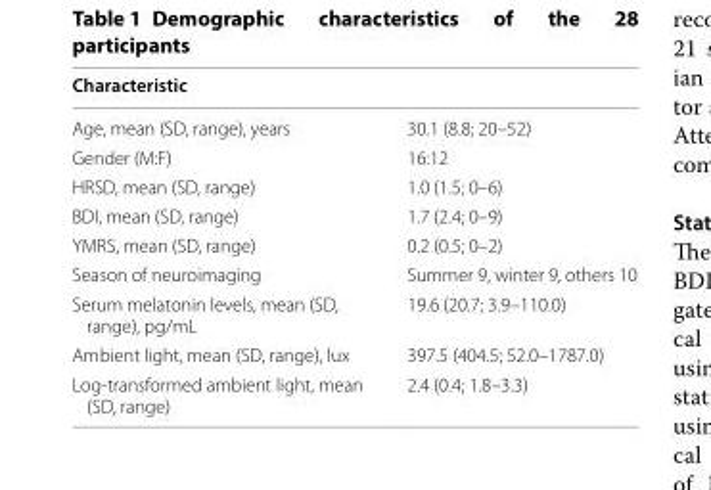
<table><thead><tr><td>Characteristic</td><td></td></tr></thead><tbody><tr><td>Age, mean (SD, range), years</td><td>30.1 (8.8; 20–52)</td></tr><tr><td>Gender (M:F)</td><td>16:12</td></tr><tr><td>HRSD, mean (SD, range)</td><td>1.0 (1.5; 0–6)</td></tr><tr><td>BDI, mean (SD, range)</td><td>1.7 (2.4; 0–9)</td></tr><tr><td>YMRS, mean (SD, range)</td><td>0.2 (0.5; 0–2)</td></tr><tr><td>Season of neuroimaging</td><td>Summer 9, winter 9, others 10</td></tr><tr><td>Serum melatonin levels, mean (SD, range), pg/mL</td><td>19.6 (20.7; 3.9–110.0)</td></tr><tr><td>Ambient light, mean (SD, range), lux</td><td>397.5 (404.5; 52.0–1787.0)</td></tr><tr><td>Log-transformed ambient light, mean (SD, range)</td><td>2.4 (0.4; 1.8–3.3)</td></tr></tbody></table>